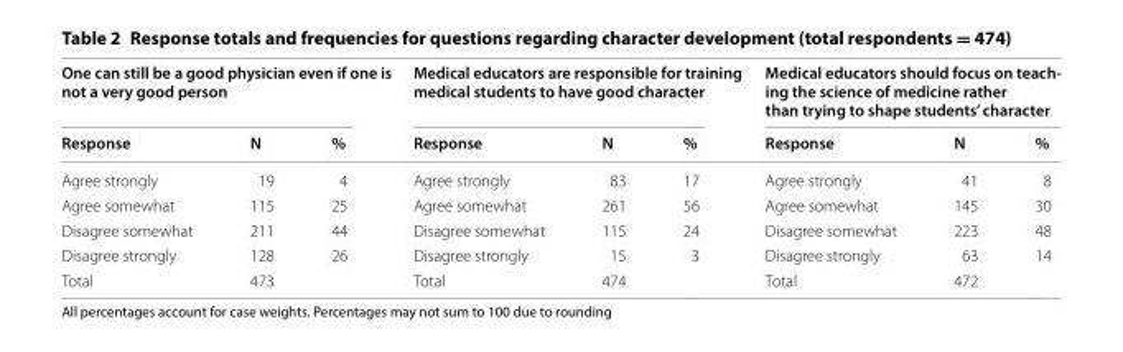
<table><thead><tr><td colspan="3">One can still be a good physician even if one is not a very good person</td><td colspan="3">Medical educators are responsible for training medical students to have good character</td><td colspan="3">Medical educators should focus on teach- ing the science of medicine rather than trying to shape students’ character</td></tr><tr><td>Response</td><td>N</td><td>%</td><td>Response</td><td>N</td><td>%</td><td>Response</td><td>N</td><td>%</td></tr></thead><tbody><tr><td>Agree strongly</td><td>19</td><td>4</td><td>Agree strongly</td><td>83</td><td>17</td><td>Agree strongly</td><td>41</td><td>8</td></tr><tr><td>Agree somewhat</td><td>115</td><td>25</td><td>Agree somewhat</td><td>261</td><td>56</td><td>Agree somewhat</td><td>145</td><td>30</td></tr><tr><td>Disagree somewhat</td><td>211</td><td>44</td><td>Disagree somewhat</td><td>115</td><td>24</td><td>Disagree somewhat</td><td>223</td><td>48</td></tr><tr><td>Disagree strongly</td><td>128</td><td>26</td><td>Disagree strongly</td><td>15</td><td>3</td><td>Disagree strongly</td><td>63</td><td>14</td></tr><tr><td>Total</td><td>473</td><td></td><td>Total</td><td>474</td><td></td><td>Total</td><td>472</td><td></td></tr></tbody></table>